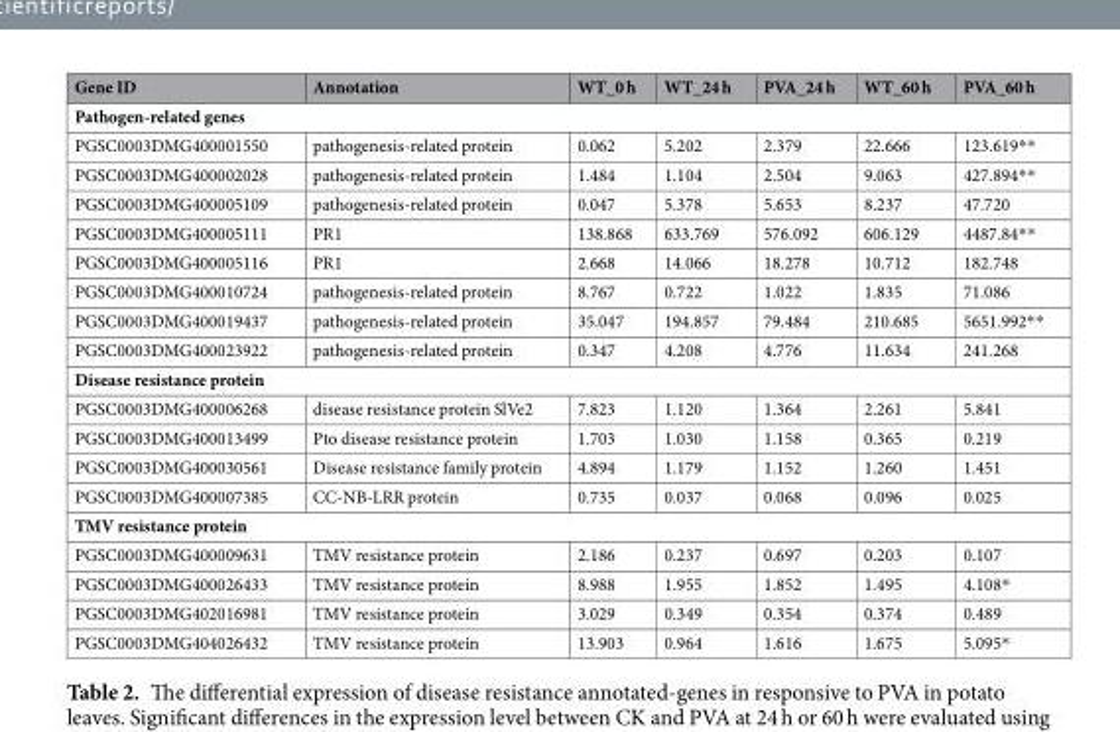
<table><thead><tr><td>Gene ID</td><td>Annotation</td><td>WT_0 h</td><td>WT_24 h</td><td>PVA_24 h</td><td>WT_60 h</td><td>PVA_60 h</td></tr></thead><tbody><tr><td colspan="7">Pathogen-related genes</td></tr><tr><td>PGSC0003DMG400001550</td><td>pathogenesis-related protein</td><td>0.062</td><td>5.202</td><td>2.379</td><td>22.666</td><td>123.619**</td></tr><tr><td>PGSC0003DMG400002028</td><td>pathogenesis-related protein</td><td>1.484</td><td>1.104</td><td>2.504</td><td>9.063</td><td>427.894**</td></tr><tr><td>PGSC0003DMG400005109</td><td>pathogenesis-related protein</td><td>0.047</td><td>5.378</td><td>5.653</td><td>8.237</td><td>47.720</td></tr><tr><td>PGSC0003DMG400005111</td><td>PR1</td><td>138.868</td><td>633.769</td><td>576.092</td><td>606.129</td><td>4487.84**</td></tr><tr><td>PGSC0003DMG400005116</td><td>PR1</td><td>2.668</td><td>14.066</td><td>18.278</td><td>10.712</td><td>182.748</td></tr><tr><td>PGSC0003DMG400010724</td><td>pathogenesis-related protein</td><td>8.767</td><td>0.722</td><td>1.022</td><td>1.835</td><td>71.086</td></tr><tr><td>PGSC0003DMG400019437</td><td>pathogenesis-related protein</td><td>35.047</td><td>194.857</td><td>79.484</td><td>210.685</td><td>5651.992**</td></tr><tr><td>PGSC0003DMG400023922</td><td>pathogenesis-related protein</td><td>0.347</td><td>4.208</td><td>4.776</td><td>11.634</td><td>241.268</td></tr><tr><td colspan="7">Disease resistance protein</td></tr><tr><td>PGSC0003DMG400006268</td><td>disease resistance protein SlVe2</td><td>7.823</td><td>1.120</td><td>1.364</td><td>2.261</td><td>5.841</td></tr><tr><td>PGSC0003DMG400013499</td><td>Pto disease resistance protein</td><td>1.703</td><td>1.030</td><td>1.158</td><td>0.365</td><td>0.219</td></tr><tr><td>PGSC0003DMG400030561</td><td>Disease resistance family protein</td><td>4.894</td><td>1.179</td><td>1.152</td><td>1.260</td><td>1.451</td></tr><tr><td>PGSC0003DMG400007385</td><td>CC-NB-LRR protein</td><td>0.735</td><td>0.037</td><td>0.068</td><td>0.096</td><td>0.025</td></tr><tr><td colspan="7">TMV resistance protein</td></tr><tr><td>PGSC0003DMG400009631</td><td>TMV resistance protein</td><td>2.186</td><td>0.237</td><td>0.697</td><td>0.203</td><td>0.107</td></tr><tr><td>PGSC0003DMG400026433</td><td>TMV resistance protein</td><td>8.988</td><td>1.955</td><td>1.852</td><td>1.495</td><td>4.108*</td></tr><tr><td>PGSC0003DMG402016981</td><td>TMV resistance protein</td><td>3.029</td><td>0.349</td><td>0.354</td><td>0.374</td><td>0.489</td></tr><tr><td>PGSC0003DMG404026432</td><td>TMV resistance protein</td><td>13.903</td><td>0.964</td><td>1.616</td><td>1.675</td><td>5.095*</td></tr></tbody></table>